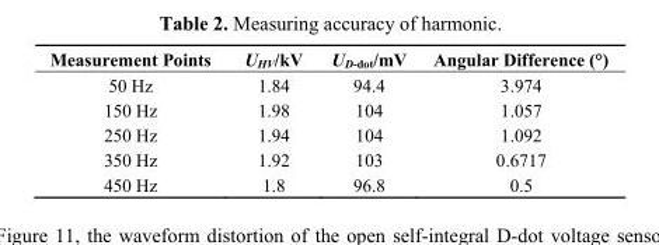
<table><thead><tr><td>Measurement Points</td><td>U<sub>HV</sub>/kV</td><td>U<sub>D-dot</sub>/mV</td><td>Angular Difference (°)</td></tr></thead><tbody><tr><td>50 Hz</td><td>1.84</td><td>94.4</td><td>3.974</td></tr><tr><td>150 Hz</td><td>1.98</td><td>104</td><td>1.057</td></tr><tr><td>250 Hz</td><td>1.94</td><td>104</td><td>1.092</td></tr><tr><td>350 Hz</td><td>1.92</td><td>103</td><td>0.6717</td></tr><tr><td>450 Hz</td><td>1.8</td><td>96.8</td><td>0.5</td></tr></tbody></table>